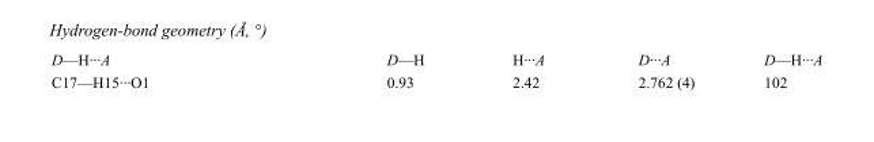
<table><tbody><tr><td>D—H···A</td><td>D—H</td><td>H···A</td><td>D···A</td><td>D—H···A</td></tr><tr><td>C17—H15···O1</td><td>0.93</td><td>2.42</td><td>2.762 (4)</td><td>102</td></tr></tbody></table>